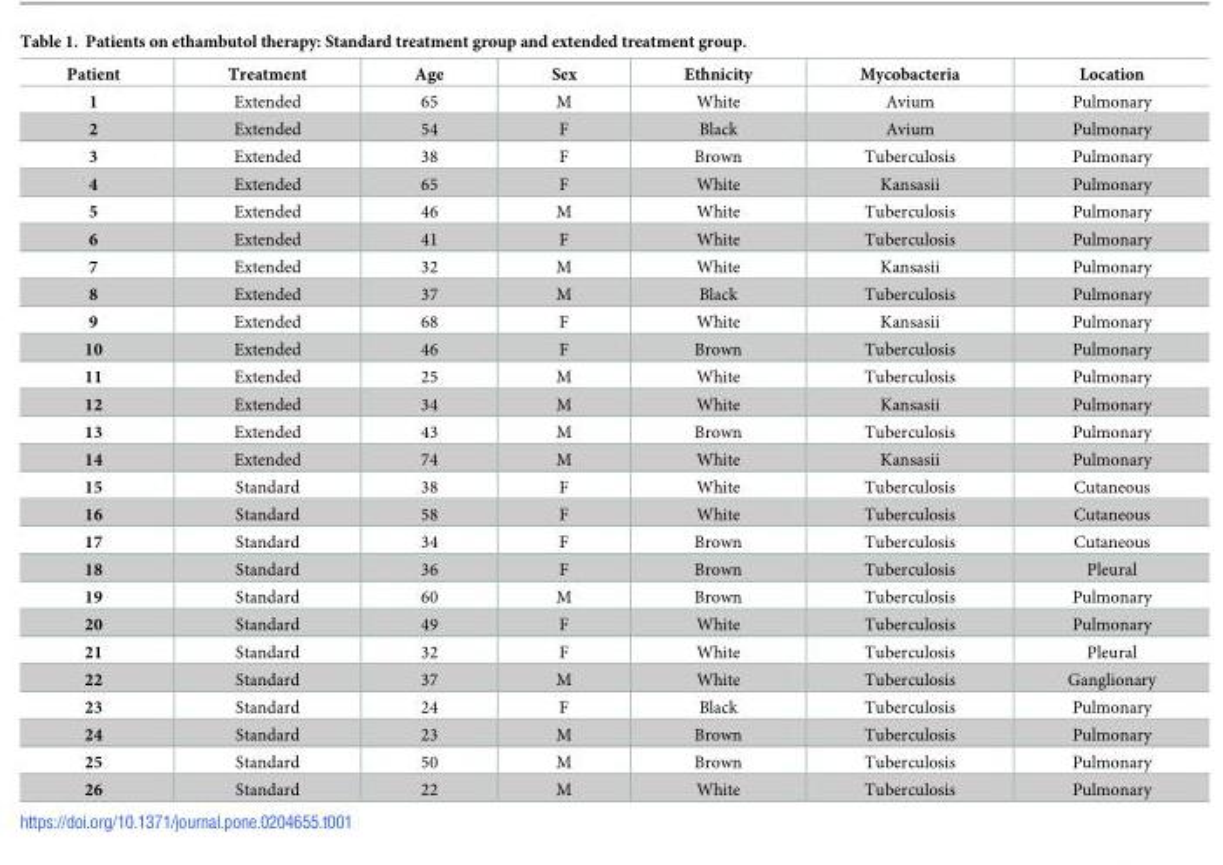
<table><thead><tr><td>Patient</td><td>Treatment</td><td>Age</td><td>Sex</td><td>Ethnicity</td><td>Mycobacteria</td><td>Location</td></tr></thead><tbody><tr><td>1</td><td>Extended</td><td>65</td><td>M</td><td>White</td><td>Avium</td><td>Pulmonary</td></tr><tr><td>2</td><td>Extended</td><td>54</td><td>F</td><td>Black</td><td>Avium</td><td>Pulmonary</td></tr><tr><td>3</td><td>Extended</td><td>38</td><td>F</td><td>Brown</td><td>Tuberculosis</td><td>Pulmonary</td></tr><tr><td>4</td><td>Extended</td><td>65</td><td>F</td><td>White</td><td>Kansasii</td><td>Pulmonary</td></tr><tr><td>5</td><td>Extended</td><td>46</td><td>M</td><td>White</td><td>Tuberculosis</td><td>Pulmonary</td></tr><tr><td>6</td><td>Extended</td><td>41</td><td>F</td><td>White</td><td>Tuberculosis</td><td>Pulmonary</td></tr><tr><td>7</td><td>Extended</td><td>32</td><td>M</td><td>White</td><td>Kansasii</td><td>Pulmonary</td></tr><tr><td>8</td><td>Extended</td><td>37</td><td>M</td><td>Black</td><td>Tuberculosis</td><td>Pulmonary</td></tr><tr><td>9</td><td>Extended</td><td>68</td><td>F</td><td>White</td><td>Kansasii</td><td>Pulmonary</td></tr><tr><td>10</td><td>Extended</td><td>46</td><td>F</td><td>Brown</td><td>Tuberculosis</td><td>Pulmonary</td></tr><tr><td>11</td><td>Extended</td><td>25</td><td>M</td><td>White</td><td>Tuberculosis</td><td>Pulmonary</td></tr><tr><td>12</td><td>Extended</td><td>34</td><td>M</td><td>White</td><td>Kansasii</td><td>Pulmonary</td></tr><tr><td>13</td><td>Extended</td><td>43</td><td>M</td><td>Brown</td><td>Tuberculosis</td><td>Pulmonary</td></tr><tr><td>14</td><td>Extended</td><td>74</td><td>M</td><td>White</td><td>Kansasii</td><td>Pulmonary</td></tr><tr><td>15</td><td>Standard</td><td>38</td><td>F</td><td>White</td><td>Tuberculosis</td><td>Cutaneous</td></tr><tr><td>16</td><td>Standard</td><td>58</td><td>F</td><td>White</td><td>Tuberculosis</td><td>Cutaneous</td></tr><tr><td>17</td><td>Standard</td><td>34</td><td>F</td><td>Brown</td><td>Tuberculosis</td><td>Cutaneous</td></tr><tr><td>18</td><td>Standard</td><td>36</td><td>F</td><td>Brown</td><td>Tuberculosis</td><td>Pleural</td></tr><tr><td>19</td><td>Standard</td><td>60</td><td>M</td><td>Brown</td><td>Tuberculosis</td><td>Pulmonary</td></tr><tr><td>20</td><td>Standard</td><td>49</td><td>F</td><td>White</td><td>Tuberculosis</td><td>Pulmonary</td></tr><tr><td>21</td><td>Standard</td><td>32</td><td>F</td><td>White</td><td>Tuberculosis</td><td>Pleural</td></tr><tr><td>22</td><td>Standard</td><td>37</td><td>M</td><td>White</td><td>Tuberculosis</td><td>Ganglionary</td></tr><tr><td>23</td><td>Standard</td><td>24</td><td>F</td><td>Black</td><td>Tuberculosis</td><td>Pulmonary</td></tr><tr><td>24</td><td>Standard</td><td>23</td><td>M</td><td>Brown</td><td>Tuberculosis</td><td>Pulmonary</td></tr><tr><td>25</td><td>Standard</td><td>50</td><td>M</td><td>Brown</td><td>Tuberculosis</td><td>Pulmonary</td></tr><tr><td>26</td><td>Standard</td><td>22</td><td>M</td><td>White</td><td>Tuberculosis</td><td>Pulmonary</td></tr></tbody></table>